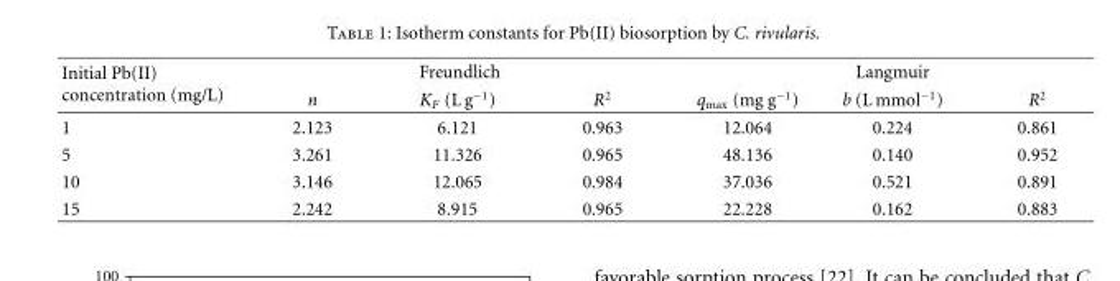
<table><thead><tr><td rowspan="2">Initial Pb(II) concentration (mg/L)</td><td colspan="3">Freundlich</td><td colspan="3">Langmuir</td></tr><tr><td>n</td><td>KF (L g−1)</td><td>R2</td><td>qmax (mg g−1)</td><td>b (L mmol−1)</td><td>R2</td></tr></thead><tbody><tr><td>1</td><td>2.123</td><td>6.121</td><td>0.963</td><td>12.064</td><td>0.224</td><td>0.861</td></tr><tr><td>5</td><td>3.261</td><td>11.326</td><td>0.965</td><td>48.136</td><td>0.140</td><td>0.952</td></tr><tr><td>10</td><td>3.146</td><td>12.065</td><td>0.984</td><td>37.036</td><td>0.521</td><td>0.891</td></tr><tr><td>15</td><td>2.242</td><td>8.915</td><td>0.965</td><td>22.228</td><td>0.162</td><td>0.883</td></tr></tbody></table>